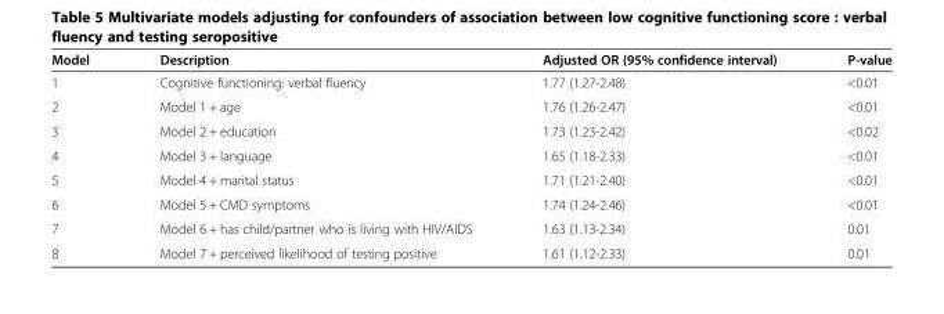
<table><thead><tr><td>Model</td><td>Description</td><td>Adjusted OR (95% confidence interval)</td><td>P-value</td></tr></thead><tbody><tr><td>1</td><td>Cognitive functioning: verbal fluency</td><td>1.77 (1.27-2.48)</td><td>&lt;0.01</td></tr><tr><td>2</td><td>Model 1 + age</td><td>1.76 (1.26-2.47)</td><td>&lt;0.01</td></tr><tr><td>3</td><td>Model 2 + education</td><td>1.73 (1.23-2.42)</td><td>&lt;0.02</td></tr><tr><td>4</td><td>Model 3 + language</td><td>1.65 (1.18-2.33)</td><td>&lt;0.01</td></tr><tr><td>5</td><td>Model 4 + marital status</td><td>1.71 (1.21-2.40)</td><td>&lt;0.01</td></tr><tr><td>6</td><td>Model 5 + CMD symptoms</td><td>1.74 (1.24-2.46)</td><td>&lt;0.01</td></tr><tr><td>7</td><td>Model 6 + has child/partner who is living with HIV/AIDS</td><td>1.63 (1.13-2.34)</td><td>0.01</td></tr><tr><td>8</td><td>Model 7 + perceived likelihood of testing positive</td><td>1.61 (1.12-2.33)</td><td>0.01</td></tr></tbody></table>